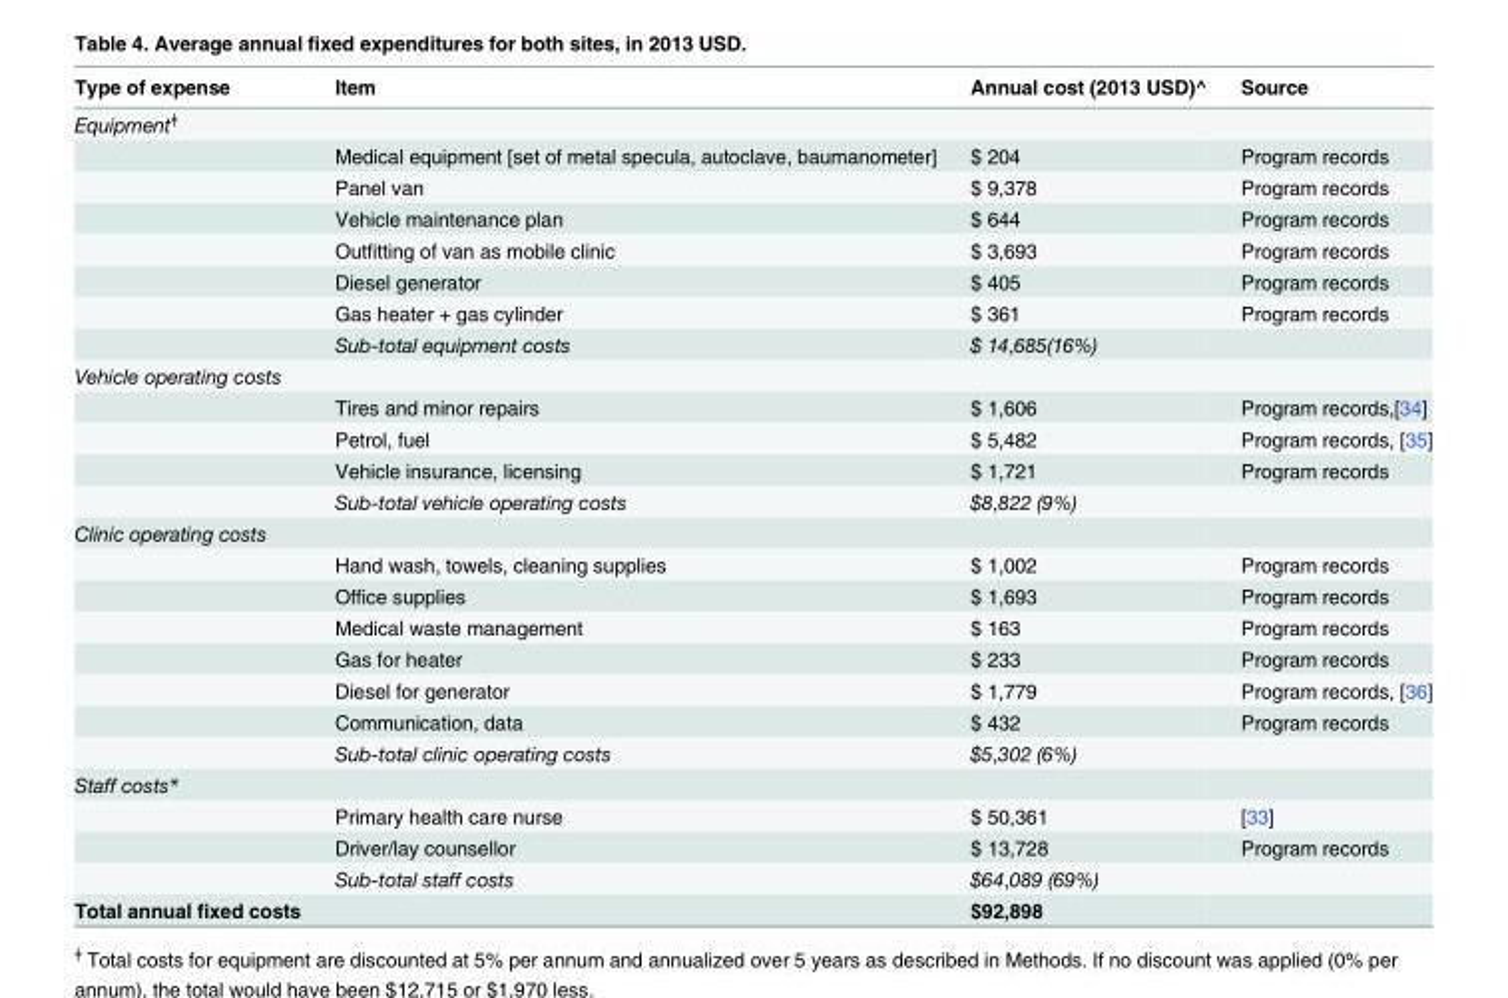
<table><thead><tr><td>Type of expense</td><td>Item</td><td>Annual cost (2013 USD)^</td><td>Source</td></tr></thead><tbody><tr><td colspan="4">Equipment<sup>ǂ</sup></td></tr><tr><td></td><td>Medical equipment [set of metal specula, autoclave, baumanometer]</td><td>$ 204</td><td>Program records</td></tr><tr><td></td><td>Panel van</td><td>$ 9,378</td><td>Program records</td></tr><tr><td></td><td>Vehicle maintenance plan</td><td>$ 644</td><td>Program records</td></tr><tr><td></td><td>Outfitting of van as mobile clinic</td><td>$ 3,693</td><td>Program records</td></tr><tr><td></td><td>Diesel generator</td><td>$ 405</td><td>Program records</td></tr><tr><td></td><td>Gas heater + gas cylinder</td><td>$ 361</td><td>Program records</td></tr><tr><td></td><td>Sub-total equipment costs</td><td>$ 14,685(16%)</td><td></td></tr><tr><td colspan="4">Vehicle operating costs</td></tr><tr><td></td><td>Tires and minor repairs</td><td>$ 1,606</td><td>Program records,[34]</td></tr><tr><td></td><td>Petrol, fuel</td><td>$ 5,482</td><td>Program records, [35]</td></tr><tr><td></td><td>Vehicle insurance, licensing</td><td>$ 1,721</td><td>Program records</td></tr><tr><td></td><td>Sub-total vehicle operating costs</td><td>$8,822 (9%)</td><td></td></tr><tr><td colspan="4">Clinic operating costs</td></tr><tr><td></td><td>Hand wash, towels, cleaning supplies</td><td>$ 1,002</td><td>Program records</td></tr><tr><td></td><td>Office supplies</td><td>$ 1,693</td><td>Program records</td></tr><tr><td></td><td>Medical waste management</td><td>$ 163</td><td>Program records</td></tr><tr><td></td><td>Gas for heater</td><td>$ 233</td><td>Program records</td></tr><tr><td></td><td>Diesel for generator</td><td>$ 1,779</td><td>Program records, [36]</td></tr><tr><td></td><td>Communication, data</td><td>$ 432</td><td>Program records</td></tr><tr><td></td><td>Sub-total clinic operating costs</td><td>$5,302 (6%)</td><td></td></tr><tr><td colspan="4">Staff costs*</td></tr><tr><td></td><td>Primary health care nurse</td><td>$ 50,361</td><td>[33]</td></tr><tr><td></td><td>Driver/lay counsellor</td><td>$ 13,728</td><td>Program records</td></tr><tr><td></td><td>Sub-total staff costs</td><td>$64,089 (69%)</td><td></td></tr><tr><td>Total annual fixed costs</td><td></td><td>$92,898</td><td></td></tr></tbody></table>